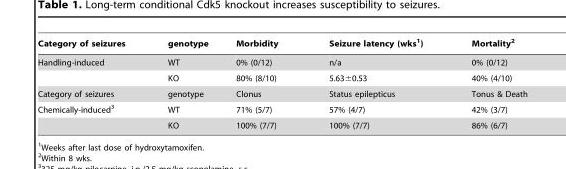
<table><thead><tr><td>Category of seizures</td><td>genotype</td><td>Morbidity</td><td>Seizure latency (wks<sup>1</sup>)</td><td>Mortality<sup>2</sup></td></tr></thead><tbody><tr><td rowspan="2">Handling-induced</td><td>WT</td><td>0% (0/12)</td><td>n/a</td><td>0% (0/12)</td></tr><tr><td>KO</td><td>80% (8/10)</td><td>5.63±0.53</td><td>40% (4/10)</td></tr><tr><td>Category of seizures</td><td>genotype</td><td>Clonus</td><td>Status epilepticus</td><td>Tonus &amp; Death</td></tr><tr><td rowspan="2">Chemically-induced<sup>3</sup></td><td>WT</td><td>71% (5/7)</td><td>57% (4/7)</td><td>42% (3/7)</td></tr><tr><td>KO</td><td>100% (7/7)</td><td>100% (7/7)</td><td>86% (6/7)</td></tr></tbody></table>